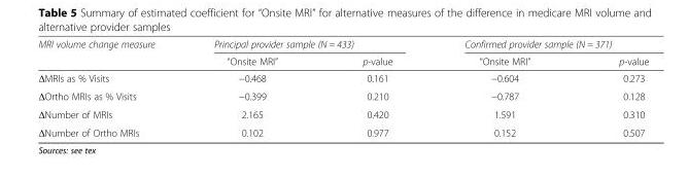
<table><thead><tr><td rowspan="2">MRI volume change measure</td><td colspan="2">Principal provider sample (N = 433)</td><td colspan="2">Confirmed provider sample (N = 371)</td></tr><tr><td>“Onsite MRI”</td><td>p-value</td><td>“Onsite MRI”</td><td>p-value</td></tr></thead><tbody><tr><td>ΔMRIs as % Visits</td><td>−0.468</td><td>0.161</td><td>−0.604</td><td>0.273</td></tr><tr><td>ΔOrtho MRIs as % Visits</td><td>−0.399</td><td>0.210</td><td>−0.787</td><td>0.128</td></tr><tr><td>ΔNumber of MRIs</td><td>2.165</td><td>0.420</td><td>1.591</td><td>0.310</td></tr><tr><td>ΔNumber of Ortho MRIs</td><td>0.102</td><td>0.977</td><td>0.152</td><td>0.507</td></tr></tbody></table>